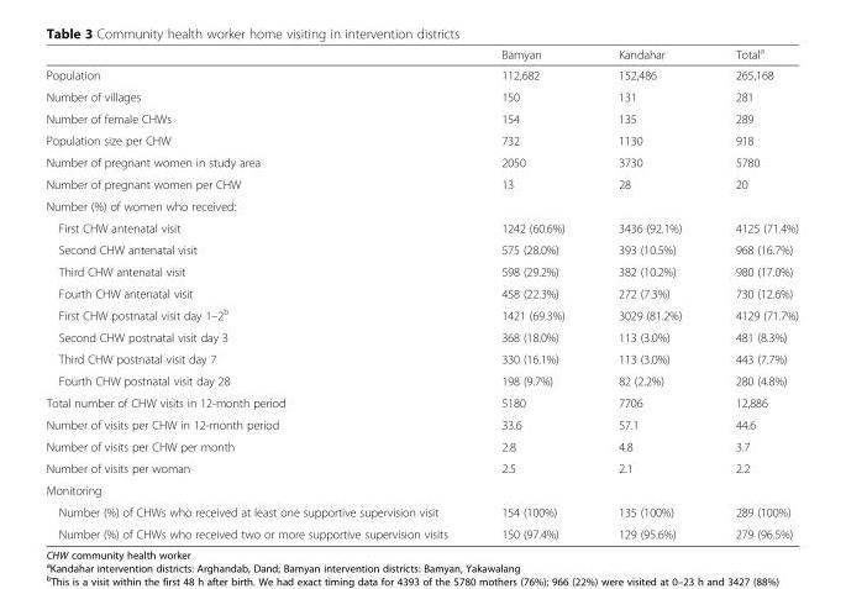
<table><thead><tr><td></td><td>Bamyan</td><td>Kandahar</td><td>Total<sup>a</sup></td></tr></thead><tbody><tr><td>Population</td><td>112,682</td><td>152,486</td><td>265,168</td></tr><tr><td>Number of villages</td><td>150</td><td>131</td><td>281</td></tr><tr><td>Number of female CHWs</td><td>154</td><td>135</td><td>289</td></tr><tr><td>Population size per CHW</td><td>732</td><td>1130</td><td>918</td></tr><tr><td>Number of pregnant women in study area</td><td>2050</td><td>3730</td><td>5780</td></tr><tr><td>Number of pregnant women per CHW</td><td>13</td><td>28</td><td>20</td></tr><tr><td colspan="4">Number (%) of women who received:</td></tr><tr><td>First CHW antenatal visit</td><td>1242 (60.6%)</td><td>3436 (92.1%)</td><td>4125 (71.4%)</td></tr><tr><td>Second CHW antenatal visit</td><td>575 (28.0%)</td><td>393 (10.5%)</td><td>968 (16.7%)</td></tr><tr><td>Third CHW antenatal visit</td><td>598 (29.2%)</td><td>382 (10.2%)</td><td>980 (17.0%)</td></tr><tr><td>Fourth CHW antenatal visit</td><td>458 (22.3%)</td><td>272 (7.3%)</td><td>730 (12.6%)</td></tr><tr><td>First CHW postnatal visit day 1–2<sup>b</sup></td><td>1421 (69.3%)</td><td>3029 (81.2%)</td><td>4129 (71.7%)</td></tr><tr><td>Second CHW postnatal visit day 3</td><td>368 (18.0%)</td><td>113 (3.0%)</td><td>481 (8.3%)</td></tr><tr><td>Third CHW postnatal visit day 7</td><td>330 (16.1%)</td><td>113 (3.0%)</td><td>443 (7.7%)</td></tr><tr><td>Fourth CHW postnatal visit day 28</td><td>198 (9.7%)</td><td>82 (2.2%)</td><td>280 (4.8%)</td></tr><tr><td>Total number of CHW visits in 12-month period</td><td>5180</td><td>7706</td><td>12,886</td></tr><tr><td>Number of visits per CHW in 12-month period</td><td>33.6</td><td>57.1</td><td>44.6</td></tr><tr><td>Number of visits per CHW per month</td><td>2.8</td><td>4.8</td><td>3.7</td></tr><tr><td>Number of visits per woman</td><td>2.5</td><td>2.1</td><td>2.2</td></tr><tr><td colspan="4">Monitoring</td></tr><tr><td>Number (%) of CHWs who received at least one supportive supervision visit</td><td>154 (100%)</td><td>135 (100%)</td><td>289 (100%)</td></tr><tr><td>Number (%) of CHWs who received two or more supportive supervision visits</td><td>150 (97.4%)</td><td>129 (95.6%)</td><td>279 (96.5%)</td></tr></tbody></table>